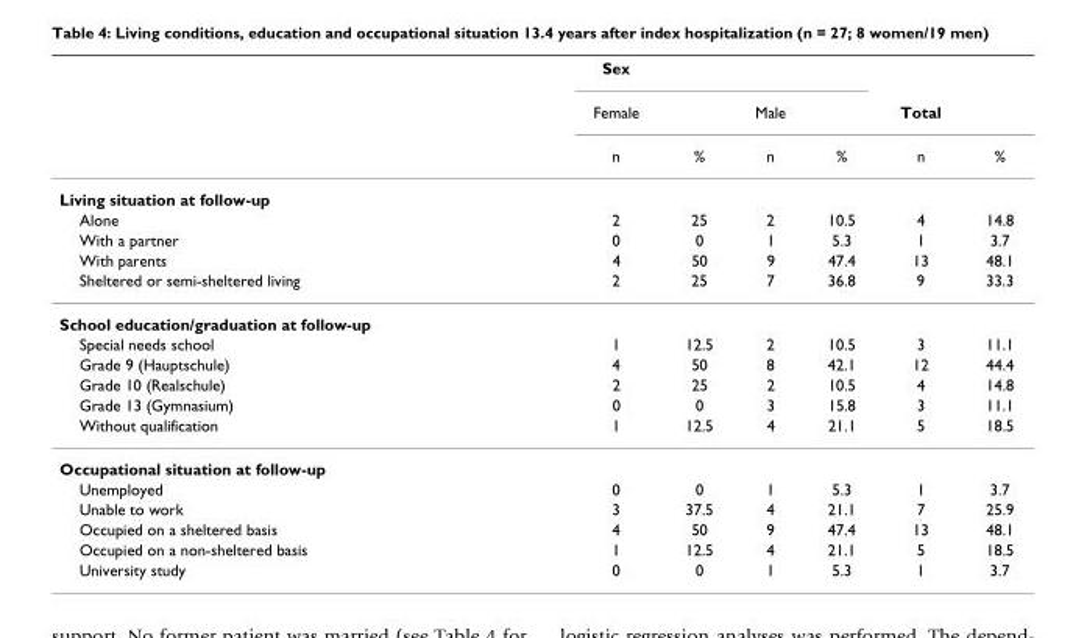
<table><thead><tr><td rowspan="3"></td><td rowspan="3">Sex Female n</td><td rowspan="3">%</td><td rowspan="3">Male n</td><td rowspan="3">%</td><td rowspan="3">Total n</td><td rowspan="3">%</td></tr><tr></tr><tr></tr></thead><tbody><tr><td colspan="7">Living situation at follow-up</td></tr><tr><td>Alone</td><td>2</td><td>25</td><td>2</td><td>10.5</td><td>4</td><td>14.8</td></tr><tr><td>With a partner</td><td>0</td><td>0</td><td>1</td><td>5.3</td><td>1</td><td>3.7</td></tr><tr><td>With parents</td><td>4</td><td>50</td><td>9</td><td>47.4</td><td>13</td><td>48.1</td></tr><tr><td>Sheltered or semi-sheltered living</td><td>2</td><td>25</td><td>7</td><td>36.8</td><td>9</td><td>33.3</td></tr><tr><td colspan="7">School education/graduation at follow-up</td></tr><tr><td>Special needs school</td><td>1</td><td>12.5</td><td>2</td><td>10.5</td><td>3</td><td>11.1</td></tr><tr><td>Grade 9 (Hauptschule)</td><td>4</td><td>50</td><td>8</td><td>42.1</td><td>12</td><td>44.4</td></tr><tr><td>Grade 10 (Realschule)</td><td>2</td><td>25</td><td>2</td><td>10.5</td><td>4</td><td>14.8</td></tr><tr><td>Grade 13 (Gymnasium)</td><td>0</td><td>0</td><td>3</td><td>15.8</td><td>3</td><td>11.1</td></tr><tr><td>Without qualification</td><td>1</td><td>12.5</td><td>4</td><td>21.1</td><td>5</td><td>18.5</td></tr><tr><td colspan="7">Occupational situation at follow-up</td></tr><tr><td>Unemployed</td><td>0</td><td>0</td><td>1</td><td>5.3</td><td>1</td><td>3.7</td></tr><tr><td>Unable to work</td><td>3</td><td>37.5</td><td>4</td><td>21.1</td><td>7</td><td>25.9</td></tr><tr><td>Occupied on a sheltered basis</td><td>4</td><td>50</td><td>9</td><td>47.4</td><td>13</td><td>48.1</td></tr><tr><td>Occupied on a non-sheltered basis</td><td>1</td><td>12.5</td><td>4</td><td>21.1</td><td>5</td><td>18.5</td></tr><tr><td>University study</td><td>0</td><td>0</td><td>1</td><td>5.3</td><td>1</td><td>3.7</td></tr></tbody></table>